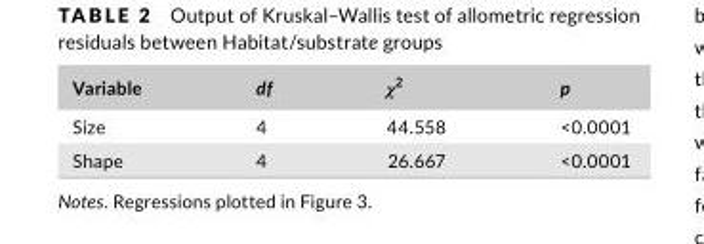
<table><thead><tr><td>Variable</td><td>df</td><td>χ<sup>2</sup></td><td>p</td></tr></thead><tbody><tr><td>Size</td><td>4</td><td>44.558</td><td>&lt;0.0001</td></tr><tr><td>Shape</td><td>4</td><td>26.667</td><td>&lt;0.0001</td></tr></tbody></table>